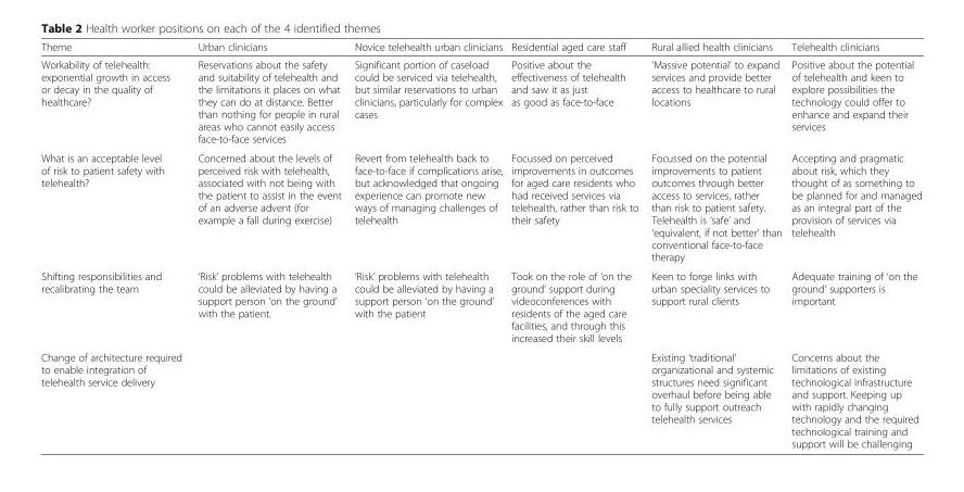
<table><thead><tr><td>Theme</td><td>Urban clinicians</td><td>Novice telehealth urban clinicians</td><td>Residential aged care staff</td><td>Rural allied health clinicians</td><td>Telehealth clinicians</td></tr></thead><tbody><tr><td>Workability of telehealth: exponential growth in access or decay in the quality of healthcare?</td><td>Reservations about the safety and suitability of telehealth and the limitations it places on what they can do at distance. Better than nothing for people in rural areas who cannot easily access face-to-face services</td><td>Significant portion of caseload could be serviced via telehealth, but similar reservations to urban clinicians, particularly for complex cases</td><td>Positive about the effectiveness of telehealth and saw it as just as good as face-to-face</td><td>‘Massive potential’ to expand services and provide better access to healthcare to rural locations</td><td>Positive about the potential of telehealth and keen to explore possibilities the technology could offer to enhance and expand their services</td></tr><tr><td>What is an acceptable level of risk to patient safety with telehealth?</td><td>Concerned about the levels of perceived risk with telehealth, associated with not being with the patient to assist in the event of an adverse advent (for example a fall during exercise)</td><td>Revert from telehealth back to face-to-face if complications arise, but acknowledged that ongoing experience can promote new ways of managing challenges of telehealth</td><td>Focussed on perceived improvements in outcomes for aged care residents who had received services via telehealth, rather than risk to their safety</td><td>Focussed on the potential improvements to patient outcomes through better access to services, rather than risk to patient safety. Telehealth is ‘safe’ and ‘equivalent, if not better’ than conventional face-to-face therapy</td><td>Accepting and pragmatic about risk, which they thought of as something to be planned for and managed as an integral part of the provision of services via telehealth</td></tr><tr><td>Shifting responsibilities and recalibrating the team</td><td>‘Risk’ problems with telehealth could be alleviated by having a support person ‘on the ground’ with the patient.</td><td>‘Risk’ problems with telehealth could be alleviated by having a support person ‘on the ground’ with the patient</td><td>Took on the role of ‘on the ground’ support during videoconferences with residents of the aged care facilities, and through this increased their skill levels</td><td>Keen to forge links with urban speciality services to support rural clients</td><td>Adequate training of ‘on the ground’ supporters is important</td></tr><tr><td>Change of architecture required to enable integration of telehealth service delivery</td><td></td><td></td><td></td><td>Existing ‘traditional’ organizational and systemic structures need significant overhaul before being able to fully support outreach telehealth services</td><td>Concerns about the limitations of existing technological infrastructure and support. Keeping up with rapidly changing technology and the required technological training and support will be challenging</td></tr></tbody></table>